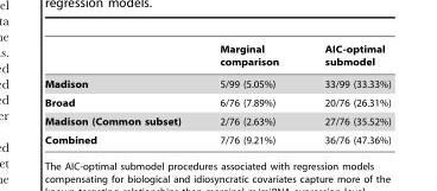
<table><thead><tr><td></td><td>Marginal comparison</td><td>AIC-optimal submodel</td></tr></thead><tbody><tr><td>Madison</td><td>5/99 (5.05%)</td><td>33/99 (33.33%)</td></tr><tr><td>Broad</td><td>6/76 (7.89%)</td><td>20/76 (26.31%)</td></tr><tr><td>Madison (Common subset)</td><td>2/76 (2.63%)</td><td>27/76 (35.52%)</td></tr><tr><td>Combined</td><td>7/76 (9.21%)</td><td>36/76 (47.36%)</td></tr></tbody></table>